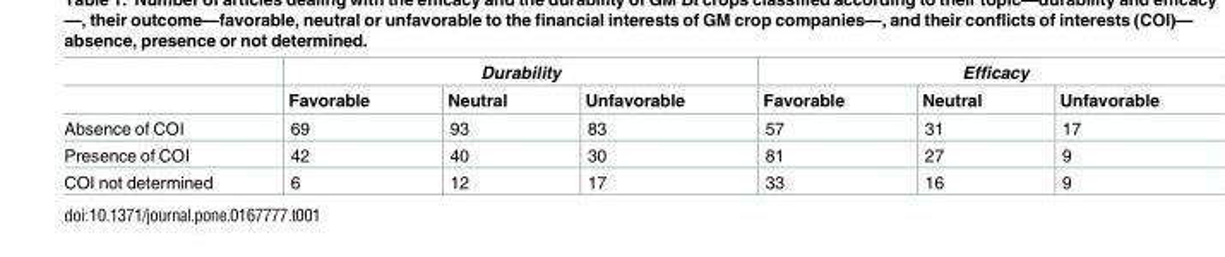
<table><thead><tr><td rowspan="2"></td><td colspan="3">Durability</td><td colspan="3">Efficacy</td></tr><tr><td>Favorable</td><td>Neutral</td><td>Unfavorable</td><td>Favorable</td><td>Neutral</td><td>Unfavorable</td></tr></thead><tbody><tr><td>Absence of COI</td><td>69</td><td>93</td><td>83</td><td>57</td><td>31</td><td>17</td></tr><tr><td>Presence of COI</td><td>42</td><td>40</td><td>30</td><td>81</td><td>27</td><td>9</td></tr><tr><td>COI not determined</td><td>6</td><td>12</td><td>17</td><td>33</td><td>16</td><td>9</td></tr></tbody></table>